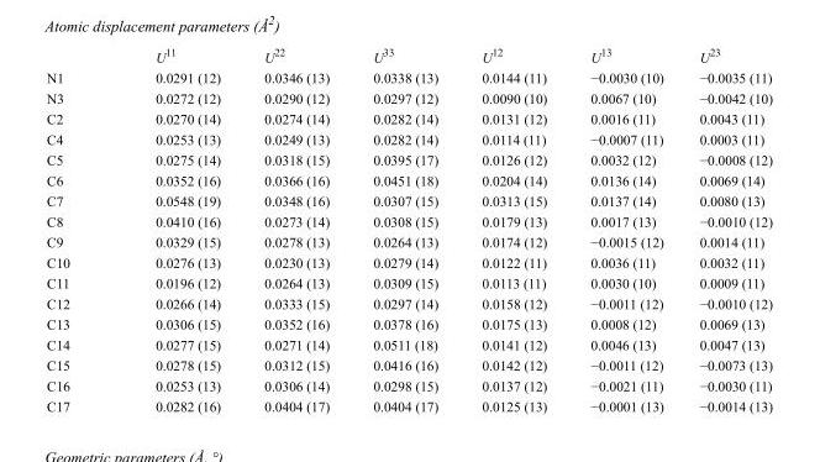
<table><thead><tr><td></td><td>U<sup>11</sup></td><td>U<sup>22</sup></td><td>U<sup>33</sup></td><td>U<sup>12</sup></td><td>U<sup>13</sup></td><td>U<sup>23</sup></td></tr></thead><tbody><tr><td>N1</td><td>0.0291 (12)</td><td>0.0346 (13)</td><td>0.0338 (13)</td><td>0.0144 (11)</td><td>−0.0030 (10)</td><td>−0.0035 (11)</td></tr><tr><td>N3</td><td>0.0272 (12)</td><td>0.0290 (12)</td><td>0.0297 (12)</td><td>0.0090 (10)</td><td>0.0067 (10)</td><td>−0.0042 (10)</td></tr><tr><td>C2</td><td>0.0270 (14)</td><td>0.0274 (14)</td><td>0.0282 (14)</td><td>0.0131 (12)</td><td>0.0016 (11)</td><td>0.0043 (11)</td></tr><tr><td>C4</td><td>0.0253 (13)</td><td>0.0249 (13)</td><td>0.0282 (14)</td><td>0.0114 (11)</td><td>−0.0007 (11)</td><td>0.0003 (11)</td></tr><tr><td>C5</td><td>0.0275 (14)</td><td>0.0318 (15)</td><td>0.0395 (17)</td><td>0.0126 (12)</td><td>0.0032 (12)</td><td>−0.0008 (12)</td></tr><tr><td>C6</td><td>0.0352 (16)</td><td>0.0366 (16)</td><td>0.0451 (18)</td><td>0.0204 (14)</td><td>0.0136 (14)</td><td>0.0069 (14)</td></tr><tr><td>C7</td><td>0.0548 (19)</td><td>0.0348 (16)</td><td>0.0307 (15)</td><td>0.0313 (15)</td><td>0.0137 (14)</td><td>0.0080 (13)</td></tr><tr><td>C8</td><td>0.0410 (16)</td><td>0.0273 (14)</td><td>0.0308 (15)</td><td>0.0179 (13)</td><td>0.0017 (13)</td><td>−0.0010 (12)</td></tr><tr><td>C9</td><td>0.0329 (15)</td><td>0.0278 (13)</td><td>0.0264 (13)</td><td>0.0174 (12)</td><td>−0.0015 (12)</td><td>0.0014 (11)</td></tr><tr><td>C10</td><td>0.0276 (13)</td><td>0.0230 (13)</td><td>0.0279 (14)</td><td>0.0122 (11)</td><td>0.0036 (11)</td><td>0.0032 (11)</td></tr><tr><td>C11</td><td>0.0196 (12)</td><td>0.0264 (13)</td><td>0.0309 (15)</td><td>0.0113 (11)</td><td>0.0030 (10)</td><td>0.0009 (11)</td></tr><tr><td>C12</td><td>0.0266 (14)</td><td>0.0333 (15)</td><td>0.0297 (14)</td><td>0.0158 (12)</td><td>−0.0011 (12)</td><td>−0.0010 (12)</td></tr><tr><td>C13</td><td>0.0306 (15)</td><td>0.0352 (16)</td><td>0.0378 (16)</td><td>0.0175 (13)</td><td>0.0008 (12)</td><td>0.0069 (13)</td></tr><tr><td>C14</td><td>0.0277 (15)</td><td>0.0271 (14)</td><td>0.0511 (18)</td><td>0.0141 (12)</td><td>0.0046 (13)</td><td>0.0047 (13)</td></tr><tr><td>C15</td><td>0.0278 (15)</td><td>0.0312 (15)</td><td>0.0416 (16)</td><td>0.0142 (12)</td><td>−0.0011 (12)</td><td>−0.0073 (13)</td></tr><tr><td>C16</td><td>0.0253 (13)</td><td>0.0306 (14)</td><td>0.0298 (15)</td><td>0.0137 (12)</td><td>−0.0021 (11)</td><td>−0.0030 (11)</td></tr><tr><td>C17</td><td>0.0282 (16)</td><td>0.0404 (17)</td><td>0.0404 (17)</td><td>0.0125 (13)</td><td>−0.0001 (13)</td><td>−0.0014 (13)</td></tr></tbody></table>